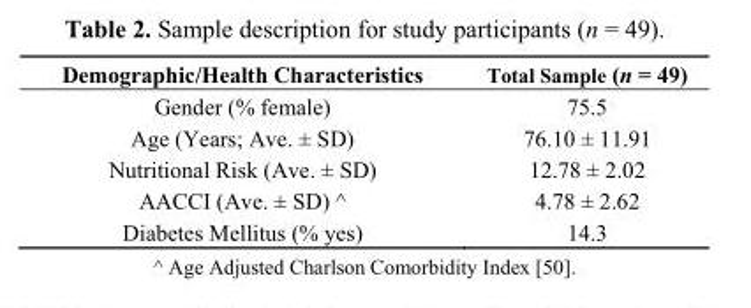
<table><thead><tr><td>Demographic/Health Characteristics</td><td>Total Sample (n = 49)</td></tr></thead><tbody><tr><td>Gender (% female)</td><td>75.5</td></tr><tr><td>Age (Years; Ave. ± SD)</td><td>76.10 ± 11.91</td></tr><tr><td>Nutritional Risk (Ave. ± SD)</td><td>12.78 ± 2.02</td></tr><tr><td>AACCI (Ave. ± SD) ^</td><td>4.78 ± 2.62</td></tr><tr><td>Diabetes Mellitus (% yes)</td><td>14.3</td></tr></tbody></table>